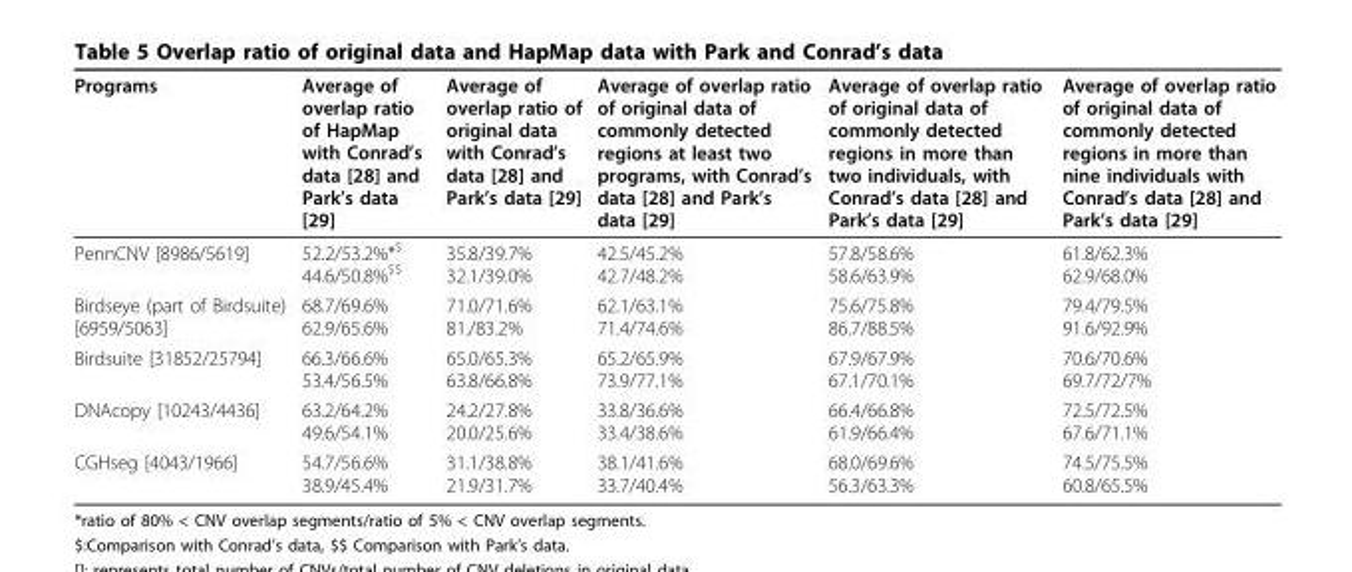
<table><thead><tr><td>Programs</td><td>Average of overlap ratio of HapMap with Conrad’s data [28] and Park’s data [29]</td><td>Average of overlap ratio of original data with Conrad’s data [28] and Park’s data [29]</td><td>Average of overlap ratio of original data of commonly detected regions at least two programs, with Conrad’s data [28] and Park’s data [29]</td><td>Average of overlap ratio of original data of commonly detected regions in more than two individuals, with Conrad’s data [28] and Park’s data [29]</td><td>Average of overlap ratio of original data of commonly detected regions in more than nine individuals with Conrad’s data [28] and Park’s data [29]</td></tr></thead><tbody><tr><td>PennCNV [8986/5619]</td><td>52.2/53.2%*<sup>$</sup> 44.6/50.8%<sup>$$</sup></td><td>35.8/39.7% 32.1/39.0%</td><td>42.5/45.2% 42.7/48.2%</td><td>57.8/58.6% 58.6/63.9%</td><td>61.8/62.3% 62.9/68.0%</td></tr><tr><td>Birdseye (part of Birdsuite) [6959/5063]</td><td>68.7/69.6% 62.9/65.6%</td><td>71.0/71.6% 81./83.2%</td><td>62.1/63.1% 71.4/74.6%</td><td>75.6/75.8% 86.7/88.5%</td><td>79.4/79.5% 91.6/92.9%</td></tr><tr><td>Birdsuite [31852/25794]</td><td>66.3/66.6% 53.4/56.5%</td><td>65.0/65.3% 63.8/66.8%</td><td>65.2/65.9% 73.9/77.1%</td><td>67.9/67.9% 67.1/70.1%</td><td>70.6/70.6% 69.7/72/7%</td></tr><tr><td>DNAcopy [10243/4436]</td><td>63.2/64.2% 49.6/54.1%</td><td>24.2/27.8% 20.0/25.6%</td><td>33.8/36.6% 33.4/38.6%</td><td>66.4/66.8% 61.9/66.4%</td><td>72.5/72.5% 67.6/71.1%</td></tr><tr><td>CGHseg [4043/1966]</td><td>54.7/56.6% 38.9/45.4%</td><td>31.1/38.8% 21.9/31.7%</td><td>38.1/41.6% 33.7/40.4%</td><td>68.0/69.6% 56.3/63.3%</td><td>74.5/75.5% 60.8/65.5%</td></tr></tbody></table>